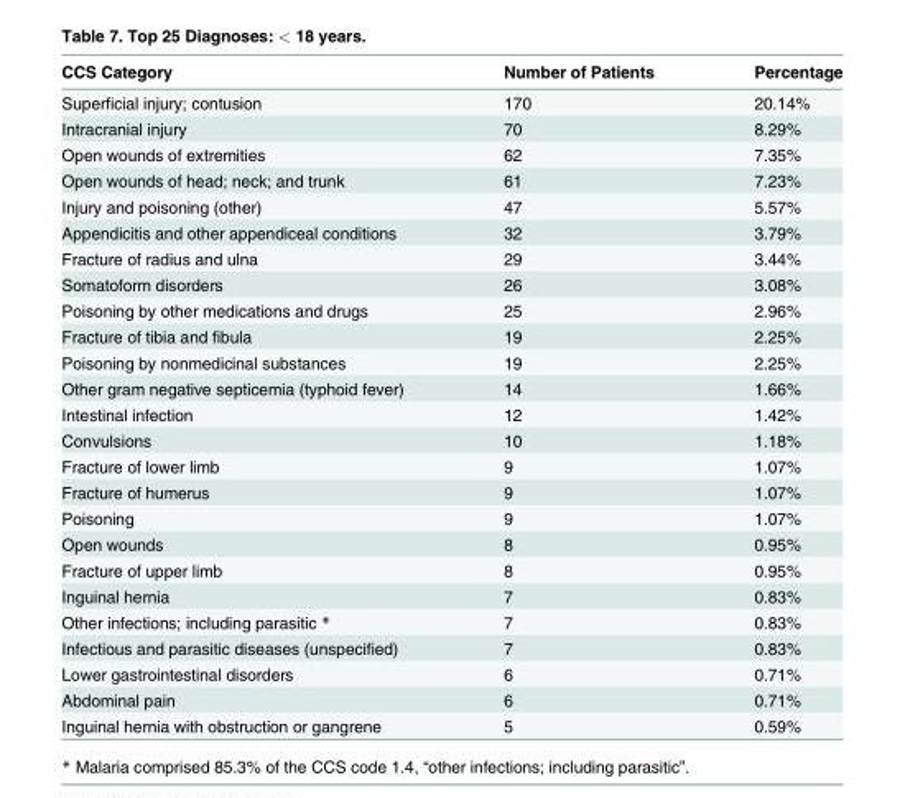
<table><thead><tr><td>CCS Category</td><td>Number of Patients</td><td>Percentage</td></tr></thead><tbody><tr><td>Superficial injury; contusion</td><td>170</td><td>20.14%</td></tr><tr><td>Intracranial injury</td><td>70</td><td>8.29%</td></tr><tr><td>Open wounds of extremities</td><td>62</td><td>7.35%</td></tr><tr><td>Open wounds of head; neck; and trunk</td><td>61</td><td>7.23%</td></tr><tr><td>Injury and poisoning (other)</td><td>47</td><td>5.57%</td></tr><tr><td>Appendicitis and other appendiceal conditions</td><td>32</td><td>3.79%</td></tr><tr><td>Fracture of radius and ulna</td><td>29</td><td>3.44%</td></tr><tr><td>Somatoform disorders</td><td>26</td><td>3.08%</td></tr><tr><td>Poisoning by other medications and drugs</td><td>25</td><td>2.96%</td></tr><tr><td>Fracture of tibia and fibula</td><td>19</td><td>2.25%</td></tr><tr><td>Poisoning by nonmedicinal substances</td><td>19</td><td>2.25%</td></tr><tr><td>Other gram negative septicemia (typhoid fever)</td><td>14</td><td>1.66%</td></tr><tr><td>Intestinal infection</td><td>12</td><td>1.42%</td></tr><tr><td>Convulsions</td><td>10</td><td>1.18%</td></tr><tr><td>Fracture of lower limb</td><td>9</td><td>1.07%</td></tr><tr><td>Fracture of humerus</td><td>9</td><td>1.07%</td></tr><tr><td>Poisoning</td><td>9</td><td>1.07%</td></tr><tr><td>Open wounds</td><td>8</td><td>0.95%</td></tr><tr><td>Fracture of upper limb</td><td>8</td><td>0.95%</td></tr><tr><td>Inguinal hernia</td><td>7</td><td>0.83%</td></tr><tr><td>Other infections; including parasitic *</td><td>7</td><td>0.83%</td></tr><tr><td>Infectious and parasitic diseases (unspecified)</td><td>7</td><td>0.83%</td></tr><tr><td>Lower gastrointestinal disorders</td><td>6</td><td>0.71%</td></tr><tr><td>Abdominal pain</td><td>6</td><td>0.71%</td></tr><tr><td>Inguinal hernia with obstruction or gangrene</td><td>5</td><td>0.59%</td></tr></tbody></table>